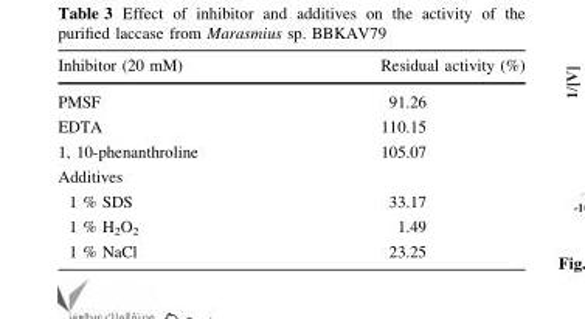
<table><thead><tr><td>Inhibitor (20 mM)</td><td>Residual activity (%)</td></tr></thead><tbody><tr><td>PMSF</td><td>91.26</td></tr><tr><td>EDTA</td><td>110.15</td></tr><tr><td>1, 10-phenanthroline</td><td>105.07</td></tr><tr><td colspan="2">Additives</td></tr><tr><td>1 % SDS</td><td>33.17</td></tr><tr><td>1 % H<sub>2</sub>O<sub>2</sub></td><td>1.49</td></tr><tr><td>1 % NaCl</td><td>23.25</td></tr></tbody></table>